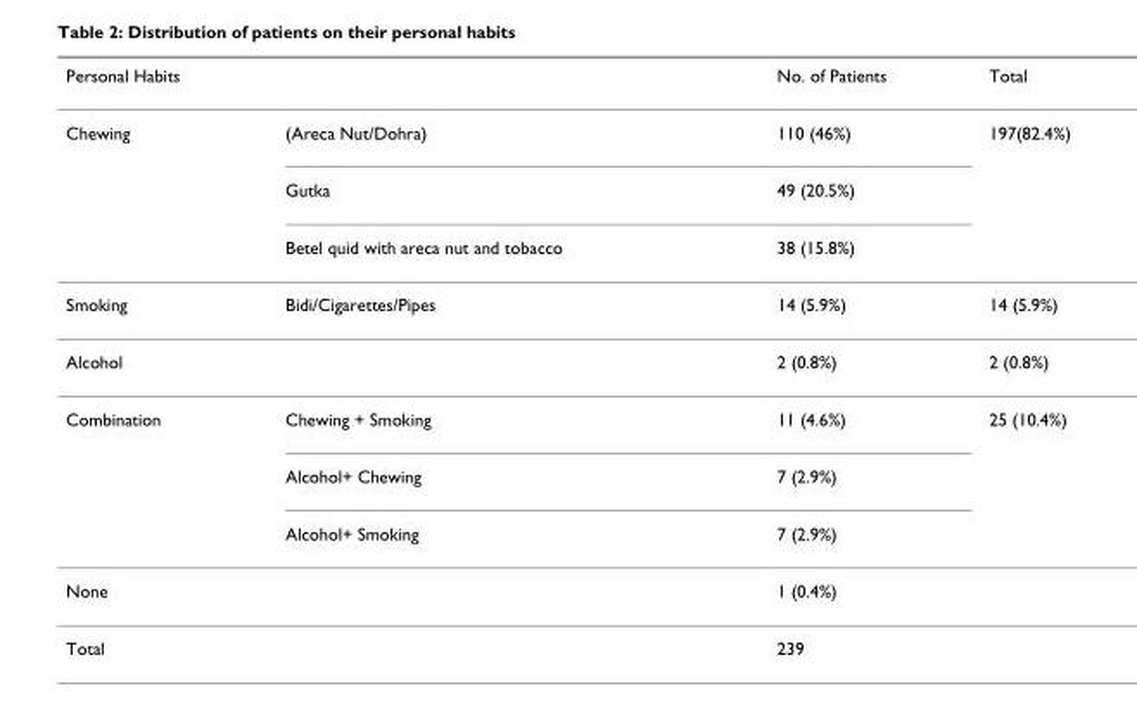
<table><thead><tr><td>Personal Habits</td><td></td><td>No. of Patients</td><td>Total</td></tr></thead><tbody><tr><td rowspan="3">Chewing</td><td>(Areca Nut/Dohra)</td><td>110 (46%)</td><td>197(82.4%)</td></tr><tr><td>Gutka</td><td>49 (20.5%)</td><td></td></tr><tr><td>Betel quid with areca nut and tobacco</td><td>38 (15.8%)</td><td></td></tr><tr><td>Smoking</td><td>Bidi/Cigarettes/Pipes</td><td>14 (5.9%)</td><td>14 (5.9%)</td></tr><tr><td>Alcohol</td><td></td><td>2 (0.8%)</td><td>2 (0.8%)</td></tr><tr><td rowspan="3">Combination</td><td>Chewing + Smoking</td><td>11 (4.6%)</td><td>25 (10.4%)</td></tr><tr><td>Alcohol+ Chewing</td><td>7 (2.9%)</td><td></td></tr><tr><td>Alcohol+ Smoking</td><td>7 (2.9%)</td><td></td></tr><tr><td>None</td><td></td><td>1 (0.4%)</td><td></td></tr><tr><td>Total</td><td></td><td>239</td><td></td></tr></tbody></table>